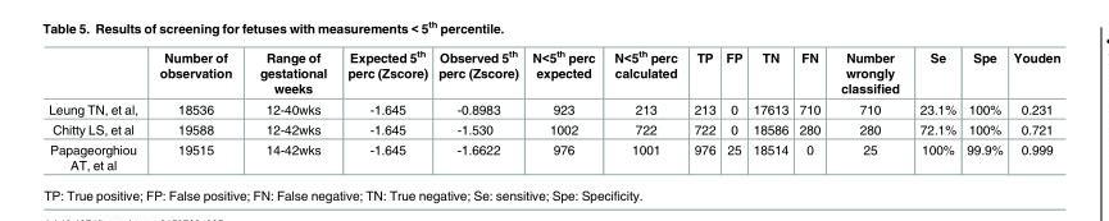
<table><thead><tr><td></td><td>Number of observation</td><td>Range of gestational weeks</td><td>Expected 5<sup>th</sup> perc (Zscore)</td><td>Observed 5<sup>th</sup> perc (Zscore)</td><td>N&lt;5<sup>th</sup> perc expected</td><td>N&lt;5<sup>th</sup> perc calculated</td><td>TP</td><td>FP</td><td>TN</td><td>FN</td><td>Number wrongly classified</td><td>Se</td><td>Spe</td><td>Youden</td></tr></thead><tbody><tr><td>Leung TN, et al,</td><td>18536</td><td>12-40wks</td><td>-1.645</td><td>-0.8983</td><td>923</td><td>213</td><td>213</td><td>0</td><td>17613</td><td>710</td><td>710</td><td>23.1%</td><td>100%</td><td>0.231</td></tr><tr><td>Chitty LS, et al</td><td>19588</td><td>12-42wks</td><td>-1.645</td><td>-1.530</td><td>1002</td><td>722</td><td>722</td><td>0</td><td>18586</td><td>280</td><td>280</td><td>72.1%</td><td>100%</td><td>0.721</td></tr><tr><td>Papageorghiou AT, et al</td><td>19515</td><td>14-42wks</td><td>-1.645</td><td>-1.6622</td><td>976</td><td>1001</td><td>976</td><td>25</td><td>18514</td><td>0</td><td>25</td><td>100%</td><td>99.9%</td><td>0.999</td></tr></tbody></table>